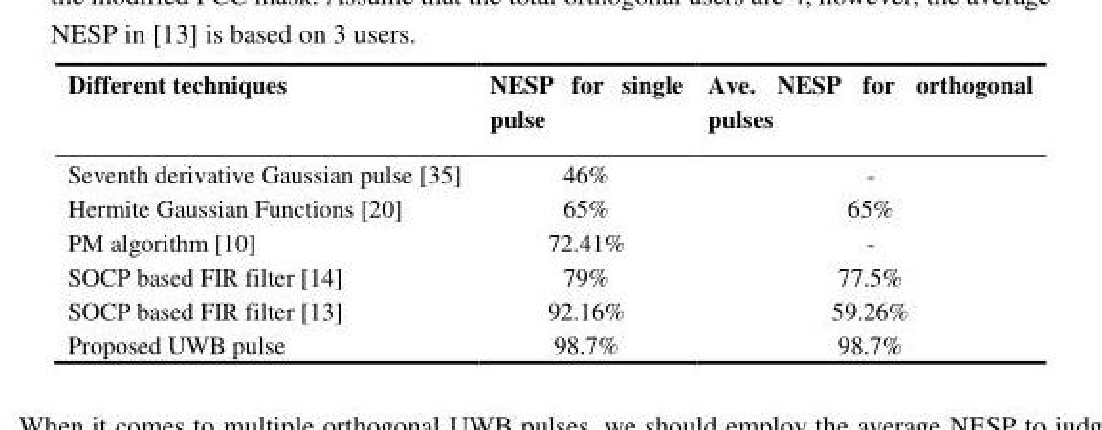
<table><thead><tr><td>Different techniques</td><td>NESP for single pulse</td><td>Ave. NESP for orthogonal pulses</td></tr></thead><tbody><tr><td>Seventh derivative Gaussian pulse [35]</td><td>46%</td><td>-</td></tr><tr><td>Hermite Gaussian Functions [20]</td><td>65%</td><td>65%</td></tr><tr><td>PM algorithm [10]</td><td>72.41%</td><td>-</td></tr><tr><td>SOCP based FIR filter [14]</td><td>79%</td><td>77.5%</td></tr><tr><td>SOCP based FIR filter [13]</td><td>92.16%</td><td>59.26%</td></tr><tr><td>Proposed UWB pulse</td><td>98.7%</td><td>98.7%</td></tr></tbody></table>